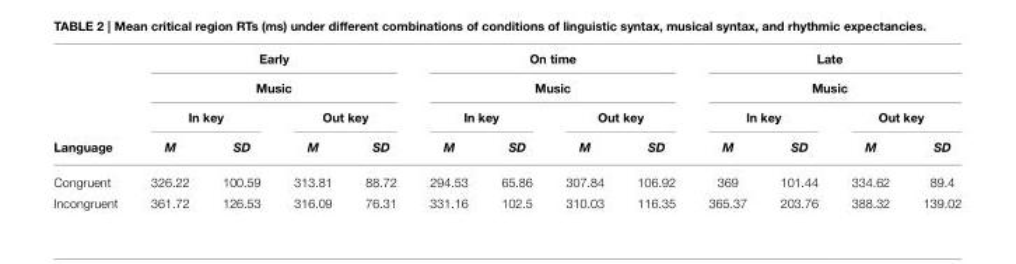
<table><thead><tr><td rowspan="4">Language</td><td rowspan="2" colspan="4">Early Music</td><td rowspan="2" colspan="4">On time Music</td><td rowspan="2" colspan="4">Late Music</td></tr><tr></tr><tr><td colspan="2">In key</td><td colspan="2">Out key</td><td colspan="2">In key</td><td colspan="2">Out key</td><td colspan="2">In key</td><td colspan="2">Out key</td></tr><tr><td>M</td><td>SD</td><td>M</td><td>SD</td><td>M</td><td>SD</td><td>M</td><td>SD</td><td>M</td><td>SD</td><td>M</td><td>SD</td></tr></thead><tbody><tr><td>Congruent</td><td>326.22</td><td>100.59</td><td>313.81</td><td>88.72</td><td>294.53</td><td>65.86</td><td>307.84</td><td>106.92</td><td>369</td><td>101.44</td><td>334.62</td><td>89.4</td></tr><tr><td>Incongruent</td><td>361.72</td><td>126.53</td><td>316.09</td><td>76.31</td><td>331.16</td><td>102.5</td><td>310.03</td><td>116.35</td><td>365.37</td><td>203.76</td><td>388.32</td><td>139.02</td></tr></tbody></table>